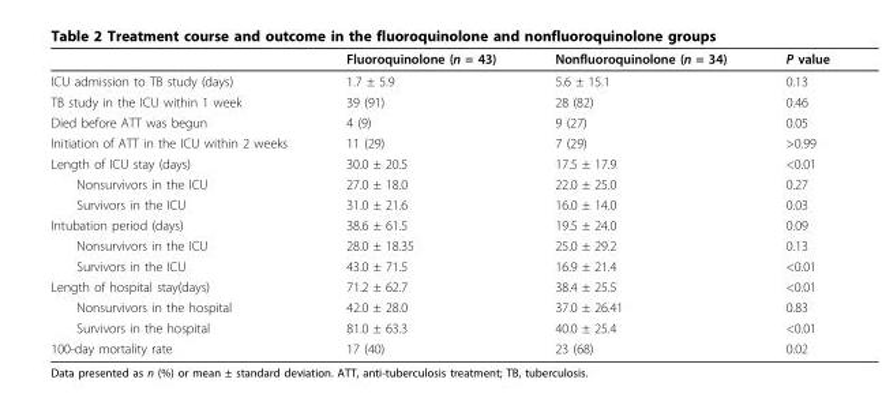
<table><thead><tr><td></td><td>Fluoroquinolone (n = 43)</td><td>Nonfluoroquinolone (n = 34)</td><td>P value</td></tr></thead><tbody><tr><td>ICU admission to TB study (days)</td><td>1.7 ± 5.9</td><td>5.6 ± 15.1</td><td>0.13</td></tr><tr><td>TB study in the ICU within 1 week</td><td>39 (91)</td><td>28 (82)</td><td>0.46</td></tr><tr><td>Died before ATT was begun</td><td>4 (9)</td><td>9 (27)</td><td>0.05</td></tr><tr><td>Initiation of ATT in the ICU within 2 weeks</td><td>11 (29)</td><td>7 (29)</td><td>&gt;0.99</td></tr><tr><td>Length of ICU stay (days)</td><td>30.0 ± 20.5</td><td>17.5 ± 17.9</td><td>&lt;0.01</td></tr><tr><td>Nonsurvivors in the ICU</td><td>27.0 ± 18.0</td><td>22.0 ± 25.0</td><td>0.27</td></tr><tr><td>Survivors in the ICU</td><td>31.0 ± 21.6</td><td>16.0 ± 14.0</td><td>0.03</td></tr><tr><td>Intubation period (days)</td><td>38.6 ± 61.5</td><td>19.5 ± 24.0</td><td>0.09</td></tr><tr><td>Nonsurvivors in the ICU</td><td>28.0 ± 18.35</td><td>25.0 ± 29.2</td><td>0.13</td></tr><tr><td>Survivors in the ICU</td><td>43.0 ± 71.5</td><td>16.9 ± 21.4</td><td>&lt;0.01</td></tr><tr><td>Length of hospital stay(days)</td><td>71.2 ± 62.7</td><td>38.4 ± 25.5</td><td>&lt;0.01</td></tr><tr><td>Nonsurvivors in the hospital</td><td>42.0 ± 28.0</td><td>37.0 ± 26.41</td><td>0.83</td></tr><tr><td>Survivors in the hospital</td><td>81.0 ± 63.3</td><td>40.0 ± 25.4</td><td>&lt;0.01</td></tr><tr><td>100-day mortality rate</td><td>17 (40)</td><td>23 (68)</td><td>0.02</td></tr></tbody></table>